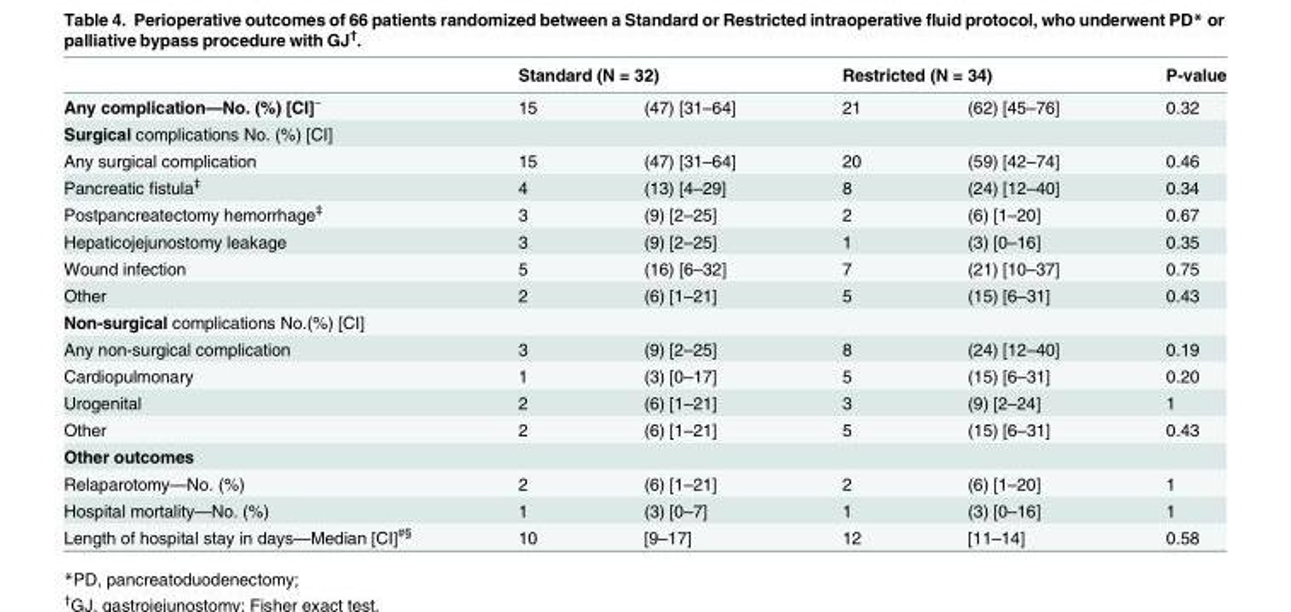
<table><thead><tr><td rowspan="2">Any complication—No. (%) [CI]<sup>~</sup></td><td colspan="2">Standard (N = 32)</td><td colspan="2">Restricted (N = 34)</td><td rowspan="2">P-value 0.32</td></tr><tr><td>15</td><td>(47) [31–64]</td><td>21</td><td>(62) [45–76]</td></tr></thead><tbody><tr><td colspan="6">Surgical complications No. (%) [CI]</td></tr><tr><td>Any surgical complication</td><td>15</td><td>(47) [31–64]</td><td>20</td><td>(59) [42–74]</td><td>0.46</td></tr><tr><td>Pancreatic fistula<sup>‡</sup></td><td>4</td><td>(13) [4–29]</td><td>8</td><td>(24) [12–40]</td><td>0.34</td></tr><tr><td>Postpancreatectomy hemorrhage<sup>‡</sup></td><td>3</td><td>(9) [2–25]</td><td>2</td><td>(6) [1–20]</td><td>0.67</td></tr><tr><td>Hepaticojejunostomy leakage</td><td>3</td><td>(9) [2–25]</td><td>1</td><td>(3) [0–16]</td><td>0.35</td></tr><tr><td>Wound infection</td><td>5</td><td>(16) [6–32]</td><td>7</td><td>(21) [10–37]</td><td>0.75</td></tr><tr><td>Other</td><td>2</td><td>(6) [1–21]</td><td>5</td><td>(15) [6–31]</td><td>0.43</td></tr><tr><td colspan="6">Non-surgical complications No.(%) [CI]</td></tr><tr><td>Any non-surgical complication</td><td>3</td><td>(9) [2–25]</td><td>8</td><td>(24) [12–40]</td><td>0.19</td></tr><tr><td>Cardiopulmonary</td><td>1</td><td>(3) [0–17]</td><td>5</td><td>(15) [6–31]</td><td>0.20</td></tr><tr><td>Urogenital</td><td>2</td><td>(6) [1–21]</td><td>3</td><td>(9) [2–24]</td><td>1</td></tr><tr><td>Other</td><td>2</td><td>(6) [1–21]</td><td>5</td><td>(15) [6–31]</td><td>0.43</td></tr><tr><td colspan="6">Other outcomes</td></tr><tr><td>Relaparotomy—No. (%)</td><td>2</td><td>(6) [1–21]</td><td>2</td><td>(6) [1–20]</td><td>1</td></tr><tr><td>Hospital mortality—No. (%)</td><td>1</td><td>(3) [0–7]</td><td>1</td><td>(3) [0–16]</td><td>1</td></tr><tr><td>Length of hospital stay in days—Median [CI]<sup>#§</sup></td><td>10</td><td>[9–17]</td><td>12</td><td>[11–14]</td><td>0.58</td></tr></tbody></table>